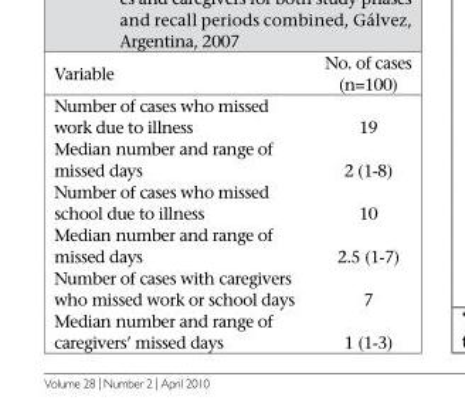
<table><thead><tr><td>Variable</td><td>No. of cases (n=100)</td></tr></thead><tbody><tr><td>Number of cases who missed work due to illness</td><td>19</td></tr><tr><td>Median number and range of missed days</td><td>2 (1-8)</td></tr><tr><td>Number of cases who missed school due to illness</td><td>10</td></tr><tr><td>Median number and range of missed days</td><td>2.5 (1-7)</td></tr><tr><td>Number of cases with caregivers who missed work or school days</td><td>7</td></tr><tr><td>Median number and range of caregivers’ missed days</td><td>1 (1-3)</td></tr></tbody></table>